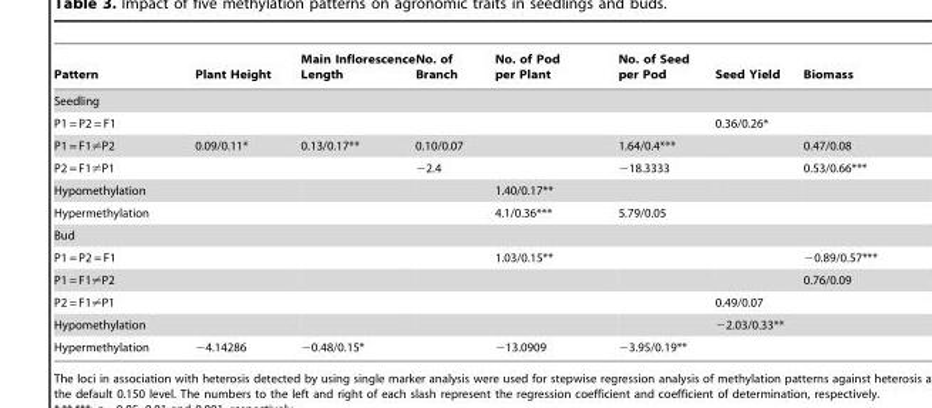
<table><thead><tr><td>Pattern</td><td>Plant Height</td><td>Main Inflorescence Length</td><td>No. of Branch</td><td>No. of Pod per Plant</td><td>No. of Seed per Pod</td><td>Seed Yield</td><td>Biomass</td></tr></thead><tbody><tr><td colspan="8">Seedling</td></tr><tr><td colspan="2">P1 = P2 = F1</td><td></td><td></td><td></td><td></td><td colspan="2">0.36/0.26*</td></tr><tr><td>P1 = F1≠P2</td><td>0.09/0.11*</td><td>0.13/0.17**</td><td colspan="2">0.10/0.07</td><td colspan="2">1.64/0.4***</td><td>0.47/0.08</td></tr><tr><td colspan="2">P2 = F1≠P1</td><td></td><td>−2.4</td><td></td><td>−18.3333</td><td></td><td>0.53/0.66***</td></tr><tr><td colspan="2">Hypomethylation</td><td></td><td></td><td colspan="2">1.40/0.17**</td><td></td><td></td></tr><tr><td colspan="2">Hypermethylation</td><td></td><td></td><td>4.1/0.36***</td><td colspan="2">5.79/0.05</td><td></td></tr><tr><td colspan="8">Bud</td></tr><tr><td colspan="2">P1 = P2 = F1</td><td></td><td></td><td>1.03/0.15**</td><td></td><td></td><td>−0.89/0.57***</td></tr><tr><td colspan="2">P1 = F1≠P2</td><td></td><td></td><td></td><td></td><td></td><td>0.76/0.09</td></tr><tr><td colspan="2">P2 = F1≠P1</td><td></td><td></td><td></td><td></td><td colspan="2">0.49/0.07</td></tr><tr><td colspan="2">Hypomethylation</td><td></td><td></td><td></td><td></td><td colspan="2">−2.03/0.33**</td></tr><tr><td>Hypermethylation</td><td>−4.14286</td><td colspan="2">−0.48/0.15*</td><td>−13.0909</td><td colspan="2">−3.95/0.19**</td><td></td></tr></tbody></table>